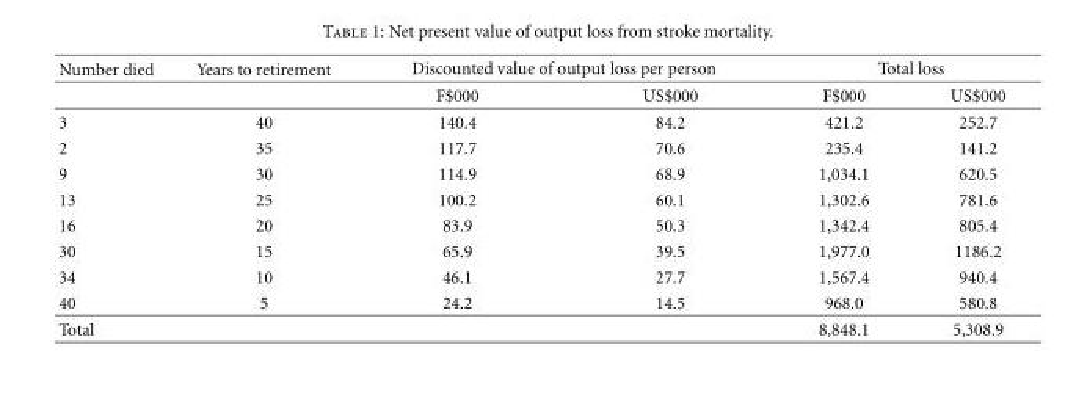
<table><thead><tr><td rowspan="2">Number died</td><td rowspan="2">Years to retirement</td><td colspan="2">Discounted value of output loss per person</td><td colspan="2">Total loss</td></tr><tr><td>F$000</td><td>US$000</td><td>F$000</td><td>US$000</td></tr></thead><tbody><tr><td>3</td><td>40</td><td>140.4</td><td>84.2</td><td>421.2</td><td>252.7</td></tr><tr><td>2</td><td>35</td><td>117.7</td><td>70.6</td><td>235.4</td><td>141.2</td></tr><tr><td>9</td><td>30</td><td>114.9</td><td>68.9</td><td>1,034.1</td><td>620.5</td></tr><tr><td>13</td><td>25</td><td>100.2</td><td>60.1</td><td>1,302.6</td><td>781.6</td></tr><tr><td>16</td><td>20</td><td>83.9</td><td>50.3</td><td>1,342.4</td><td>805.4</td></tr><tr><td>30</td><td>15</td><td>65.9</td><td>39.5</td><td>1,977.0</td><td>1186.2</td></tr><tr><td>34</td><td>10</td><td>46.1</td><td>27.7</td><td>1,567.4</td><td>940.4</td></tr><tr><td>40</td><td>5</td><td>24.2</td><td>14.5</td><td>968.0</td><td>580.8</td></tr><tr><td>Total</td><td></td><td></td><td></td><td>8,848.1</td><td>5,308.9</td></tr></tbody></table>